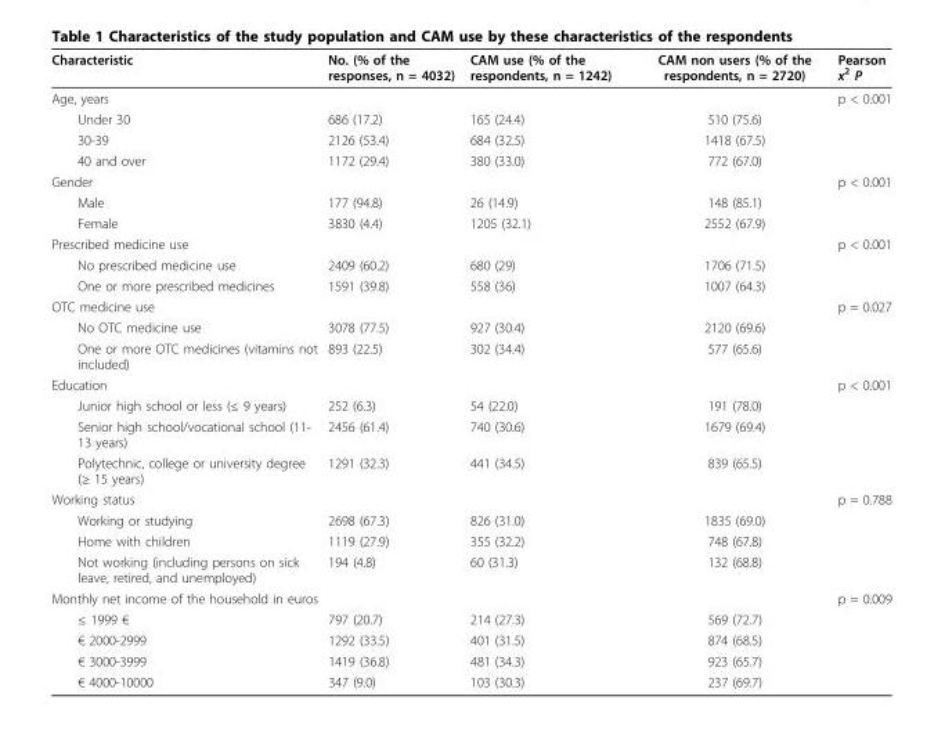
<table><thead><tr><td>Characteristic</td><td>No. (% of the responses, n = 4032)</td><td>CAM use (% of the respondents, n = 1242)</td><td>CAM non users (% of the respondents, n = 2720)</td><td>Pearson x<sup>2</sup> P</td></tr></thead><tbody><tr><td>Age, years</td><td></td><td></td><td></td><td>p &lt; 0.001</td></tr><tr><td>Under 30</td><td>686 (17.2)</td><td>165 (24.4)</td><td>510 (75.6)</td><td></td></tr><tr><td>30-39</td><td>2126 (53.4)</td><td>684 (32.5)</td><td>1418 (67.5)</td><td></td></tr><tr><td>40 and over</td><td>1172 (29.4)</td><td>380 (33.0)</td><td>772 (67.0)</td><td></td></tr><tr><td>Gender</td><td></td><td></td><td></td><td>p &lt; 0.001</td></tr><tr><td>Male</td><td>177 (94.8)</td><td>26 (14.9)</td><td>148 (85.1)</td><td></td></tr><tr><td>Female</td><td>3830 (4.4)</td><td>1205 (32.1)</td><td>2552 (67.9)</td><td></td></tr><tr><td>Prescribed medicine use</td><td></td><td></td><td></td><td>p &lt; 0.001</td></tr><tr><td>No prescribed medicine use</td><td>2409 (60.2)</td><td>680 (29)</td><td>1706 (71.5)</td><td></td></tr><tr><td>One or more prescribed medicines</td><td>1591 (39.8)</td><td>558 (36)</td><td>1007 (64.3)</td><td></td></tr><tr><td>OTC medicine use</td><td></td><td></td><td></td><td>p = 0.027</td></tr><tr><td>No OTC medicine use</td><td>3078 (77.5)</td><td>927 (30.4)</td><td>2120 (69.6)</td><td></td></tr><tr><td>One or more OTC medicines (vitamins not included)</td><td>893 (22.5)</td><td>302 (34.4)</td><td>577 (65.6)</td><td></td></tr><tr><td>Education</td><td></td><td></td><td></td><td>p &lt; 0.001</td></tr><tr><td>Junior high school or less (≤ 9 years)</td><td>252 (6.3)</td><td>54 (22.0)</td><td>191 (78.0)</td><td></td></tr><tr><td>Senior high school/vocational school (11- 13 years)</td><td>2456 (61.4)</td><td>740 (30.6)</td><td>1679 (69.4)</td><td></td></tr><tr><td>Polytechnic, college or university degree (≥ 15 years)</td><td>1291 (32.3)</td><td>441 (34.5)</td><td>839 (65.5)</td><td></td></tr><tr><td>Working status</td><td></td><td></td><td></td><td>p = 0.788</td></tr><tr><td>Working or studying</td><td>2698 (67.3)</td><td>826 (31.0)</td><td>1835 (69.0)</td><td></td></tr><tr><td>Home with children</td><td>1119 (27.9)</td><td>355 (32.2)</td><td>748 (67.8)</td><td></td></tr><tr><td>Not working (including persons on sick leave, retired, and unemployed)</td><td>194 (4.8)</td><td>60 (31.3)</td><td>132 (68.8)</td><td></td></tr><tr><td>Monthly net income of the household in euros</td><td></td><td></td><td></td><td>p = 0.009</td></tr><tr><td>≤ 1999 €</td><td>797 (20.7)</td><td>214 (27.3)</td><td>569 (72.7)</td><td></td></tr><tr><td>€ 2000-2999</td><td>1292 (33.5)</td><td>401 (31.5)</td><td>874 (68.5)</td><td></td></tr><tr><td>€ 3000-3999</td><td>1419 (36.8)</td><td>481 (34.3)</td><td>923 (65.7)</td><td></td></tr><tr><td>€ 4000-10000</td><td>347 (9.0)</td><td>103 (30.3)</td><td>237 (69.7)</td><td></td></tr></tbody></table>